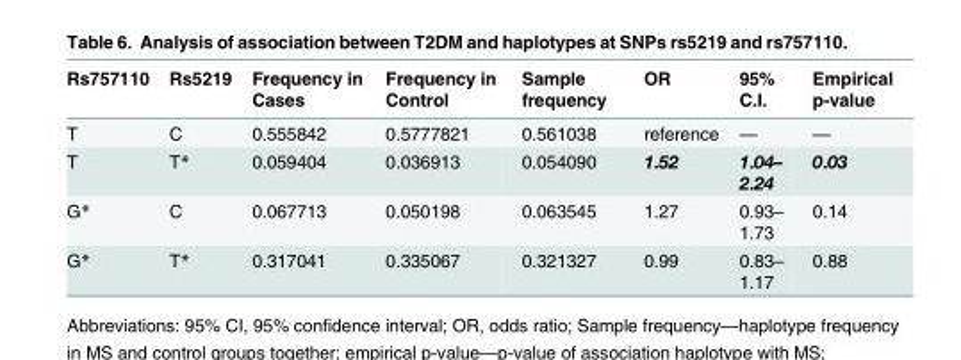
<table><thead><tr><td>Rs757110</td><td>Rs5219</td><td>Frequency in Cases</td><td>Frequency in Control</td><td>Sample frequency</td><td>OR</td><td>95% C.I.</td><td>Empirical p-value</td></tr></thead><tbody><tr><td>T</td><td>C</td><td>0.555842</td><td>0.5777821</td><td>0.561038</td><td>reference</td><td>—</td><td>—</td></tr><tr><td>T</td><td>T*</td><td>0.059404</td><td>0.036913</td><td>0.054090</td><td>1.52</td><td>1.04– 2.24</td><td>0.03</td></tr><tr><td>G*</td><td>C</td><td>0.067713</td><td>0.050198</td><td>0.063545</td><td>1.27</td><td>0.93– 1.73</td><td>0.14</td></tr><tr><td>G*</td><td>T*</td><td>0.317041</td><td>0.335067</td><td>0.321327</td><td>0.99</td><td>0.83– 1.17</td><td>0.88</td></tr></tbody></table>